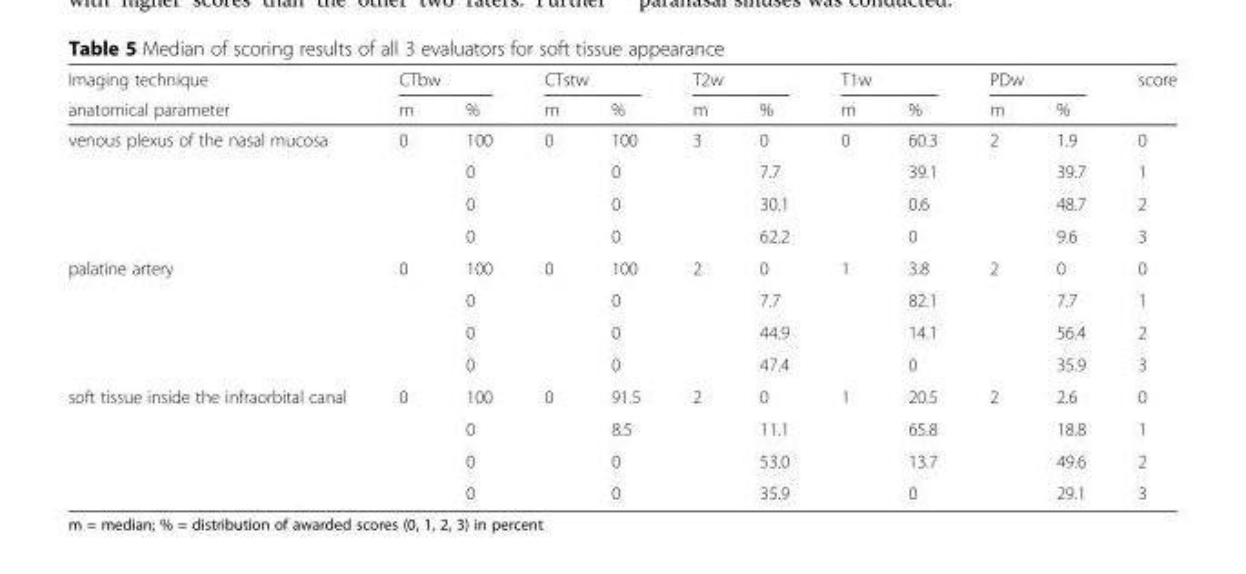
<table><thead><tr><td rowspan="2">Imaging technique anatomical parameter</td><td colspan="2">CTbw</td><td colspan="2">CTstw</td><td colspan="2">T2w</td><td colspan="2">T1w</td><td colspan="2">PDw</td><td rowspan="2">score</td></tr><tr><td>m</td><td>%</td><td>m</td><td>%</td><td>m</td><td>%</td><td>m</td><td>%</td><td>m</td><td>%</td></tr></thead><tbody><tr><td rowspan="4">venous plexus of the nasal mucosa</td><td rowspan="4">0</td><td>100</td><td rowspan="4">0</td><td>100</td><td rowspan="4">3</td><td>0</td><td rowspan="4">0</td><td>60.3</td><td rowspan="4">2</td><td>1.9</td><td>0</td></tr><tr><td>0</td><td>0</td><td>7.7</td><td>39.1</td><td>39.7</td><td>1</td></tr><tr><td>0</td><td>0</td><td>30.1</td><td>0.6</td><td>48.7</td><td>2</td></tr><tr><td>0</td><td>0</td><td>62.2</td><td>0</td><td>9.6</td><td>3</td></tr><tr><td rowspan="4">palatine artery</td><td rowspan="4">0</td><td>100</td><td rowspan="4">0</td><td>100</td><td rowspan="4">2</td><td>0</td><td rowspan="4">1</td><td>3.8</td><td rowspan="4">2</td><td>0</td><td>0</td></tr><tr><td>0</td><td>0</td><td>7.7</td><td>82.1</td><td>7.7</td><td>1</td></tr><tr><td>0</td><td>0</td><td>44.9</td><td>14.1</td><td>56.4</td><td>2</td></tr><tr><td>0</td><td>0</td><td>47.4</td><td>0</td><td>35.9</td><td>3</td></tr><tr><td rowspan="4">soft tissue inside the infraorbital canal</td><td rowspan="4">0</td><td>100</td><td rowspan="4">0</td><td>91.5</td><td rowspan="4">2</td><td>0</td><td rowspan="4">1</td><td>20.5</td><td rowspan="4">2</td><td>2.6</td><td>0</td></tr><tr><td>0</td><td>8.5</td><td>11.1</td><td>65.8</td><td>18.8</td><td>1</td></tr><tr><td>0</td><td>0</td><td>53.0</td><td>13.7</td><td>49.6</td><td>2</td></tr><tr><td>0</td><td>0</td><td>35.9</td><td>0</td><td>29.1</td><td>3</td></tr></tbody></table>